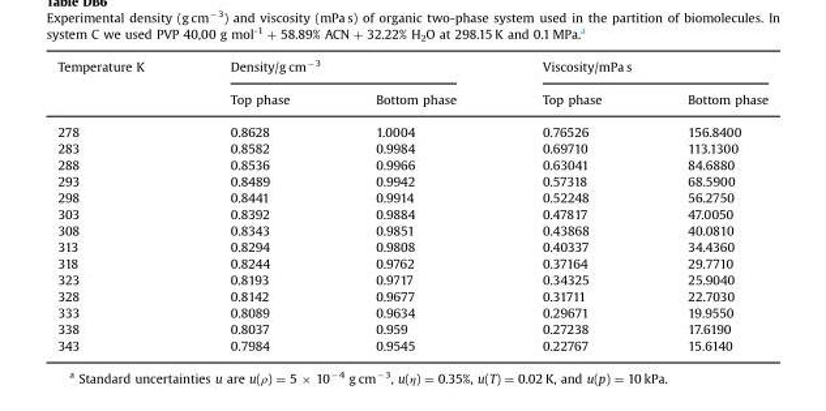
<table><thead><tr><td rowspan="2">Temperature K</td><td colspan="2">Density/g cm<sup>−3</sup></td><td colspan="2">Viscosity/mPa s</td></tr><tr><td>Top phase</td><td>Bottom phase</td><td>Top phase</td><td>Bottom phase</td></tr></thead><tbody><tr><td>278</td><td>0.8628</td><td>1.0004</td><td>0.76526</td><td>156.8400</td></tr><tr><td>283</td><td>0.8582</td><td>0.9984</td><td>0.69710</td><td>113.1300</td></tr><tr><td>288</td><td>0.8536</td><td>0.9966</td><td>0.63041</td><td>84.6880</td></tr><tr><td>293</td><td>0.8489</td><td>0.9942</td><td>0.57318</td><td>68.5900</td></tr><tr><td>298</td><td>0.8441</td><td>0.9914</td><td>0.52248</td><td>56.2750</td></tr><tr><td>303</td><td>0.8392</td><td>0.9884</td><td>0.47817</td><td>47.0050</td></tr><tr><td>308</td><td>0.8343</td><td>0.9851</td><td>0.43868</td><td>40.0810</td></tr><tr><td>313</td><td>0.8294</td><td>0.9808</td><td>0.40337</td><td>34.4360</td></tr><tr><td>318</td><td>0.8244</td><td>0.9762</td><td>0.37164</td><td>29.7710</td></tr><tr><td>323</td><td>0.8193</td><td>0.9717</td><td>0.34325</td><td>25.9040</td></tr><tr><td>328</td><td>0.8142</td><td>0.9677</td><td>0.31711</td><td>22.7030</td></tr><tr><td>333</td><td>0.8089</td><td>0.9634</td><td>0.29671</td><td>19.9550</td></tr><tr><td>338</td><td>0.8037</td><td>0.959</td><td>0.27238</td><td>17.6190</td></tr><tr><td>343</td><td>0.7984</td><td>0.9545</td><td>0.22767</td><td>15.6140</td></tr></tbody></table>